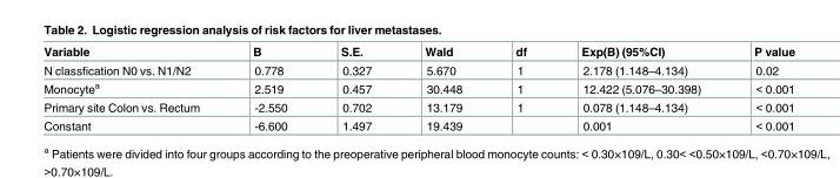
<table><thead><tr><td>Variable</td><td>B</td><td>S.E.</td><td>Wald</td><td>df</td><td>Exp(B) (95%CI)</td><td>P value</td></tr></thead><tbody><tr><td>N classfication N0 vs. N1/N2</td><td>0.778</td><td>0.327</td><td>5.670</td><td>1</td><td>2.178 (1.148–4.134)</td><td>0.02</td></tr><tr><td>Monocyte<sup>a</sup></td><td>2.519</td><td>0.457</td><td>30.448</td><td>1</td><td>12.422 (5.076–30.398)</td><td>&lt; 0.001</td></tr><tr><td>Primary site Colon vs. Rectum</td><td>-2.550</td><td>0.702</td><td>13.179</td><td>1</td><td>0.078 (1.148–4.134)</td><td>&lt; 0.001</td></tr><tr><td>Constant</td><td>-6.600</td><td>1.497</td><td>19.439</td><td></td><td>0.001</td><td>&lt; 0.001</td></tr></tbody></table>